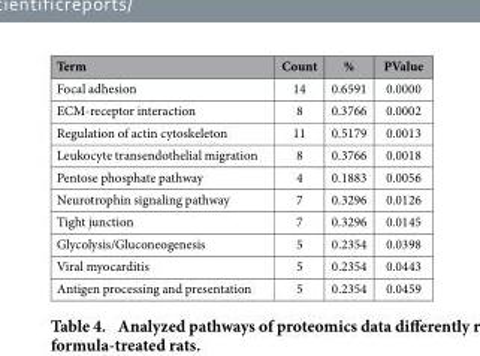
<table><thead><tr><td>Term</td><td>Count</td><td>%</td><td>PValue</td></tr></thead><tbody><tr><td>Focal adhesion</td><td>14</td><td>0.6591</td><td>0.0000</td></tr><tr><td>ECM-receptor interaction</td><td>8</td><td>0.3766</td><td>0.0002</td></tr><tr><td>Regulation of actin cytoskeleton</td><td>11</td><td>0.5179</td><td>0.0013</td></tr><tr><td>Leukocyte transendothelial migration</td><td>8</td><td>0.3766</td><td>0.0018</td></tr><tr><td>Pentose phosphate pathway</td><td>4</td><td>0.1883</td><td>0.0056</td></tr><tr><td>Neurotrophin signaling pathway</td><td>7</td><td>0.3296</td><td>0.0126</td></tr><tr><td>Tight junction</td><td>7</td><td>0.3296</td><td>0.0145</td></tr><tr><td>Glycolysis/Gluconeogenesis</td><td>5</td><td>0.2354</td><td>0.0398</td></tr><tr><td>Viral myocarditis</td><td>5</td><td>0.2354</td><td>0.0443</td></tr><tr><td>Antigen processing and presentation</td><td>5</td><td>0.2354</td><td>0.0459</td></tr></tbody></table>